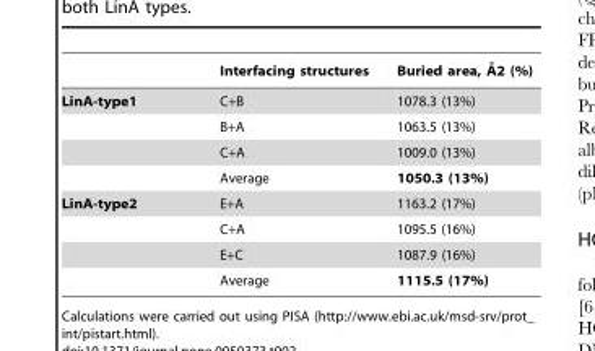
<table><thead><tr><td></td><td>Interfacing structures</td><td>Buried area, A˚2 (%)</td></tr></thead><tbody><tr><td rowspan="4">LinA-type1</td><td>C+B</td><td>1078.3 (13%)</td></tr><tr><td>B+A</td><td>1063.5 (13%)</td></tr><tr><td>C+A</td><td>1009.0 (13%)</td></tr><tr><td>Average</td><td>1050.3 (13%)</td></tr><tr><td rowspan="4">LinA-type2</td><td>E+A</td><td>1163.2 (17%)</td></tr><tr><td>C+A</td><td>1095.5 (16%)</td></tr><tr><td>E+C</td><td>1087.9 (16%)</td></tr><tr><td>Average</td><td>1115.5 (17%)</td></tr></tbody></table>